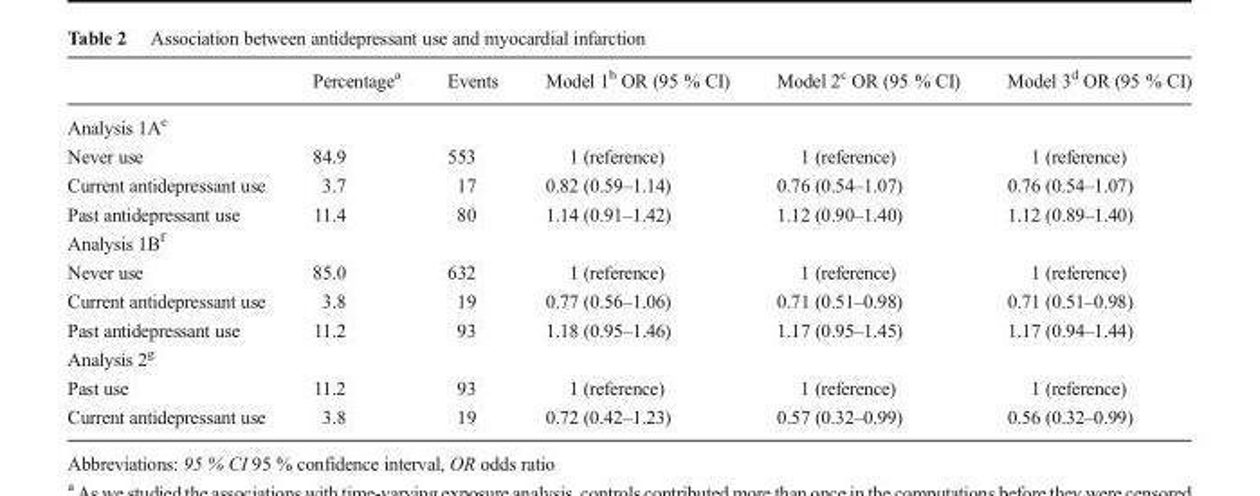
<table><thead><tr><td></td><td>Percentage<sup>a</sup></td><td>Events</td><td>Model 1<sup>b</sup> OR (95 % CI)</td><td>Model 2<sup>c</sup> OR (95 % CI)</td><td>Model 3<sup>d</sup> OR (95 % CI)</td></tr></thead><tbody><tr><td colspan="6">Analysis 1A<sup>e</sup></td></tr><tr><td>Never use</td><td>84.9</td><td>553</td><td>1 (reference)</td><td>1 (reference)</td><td>1 (reference)</td></tr><tr><td>Current antidepressant use</td><td>3.7</td><td>17</td><td>0.82 (0.59–1.14)</td><td>0.76 (0.54–1.07)</td><td>0.76 (0.54–1.07)</td></tr><tr><td>Past antidepressant use</td><td>11.4</td><td>80</td><td>1.14 (0.91–1.42)</td><td>1.12 (0.90–1.40)</td><td>1.12 (0.89–1.40)</td></tr><tr><td colspan="6">Analysis 1B<sup>f</sup></td></tr><tr><td>Never use</td><td>85.0</td><td>632</td><td>1 (reference)</td><td>1 (reference)</td><td>1 (reference)</td></tr><tr><td>Current antidepressant use</td><td>3.8</td><td>19</td><td>0.77 (0.56–1.06)</td><td>0.71 (0.51–0.98)</td><td>0.71 (0.51–0.98)</td></tr><tr><td>Past antidepressant use</td><td>11.2</td><td>93</td><td>1.18 (0.95–1.46)</td><td>1.17 (0.95–1.45)</td><td>1.17 (0.94–1.44)</td></tr><tr><td colspan="6">Analysis 2<sup>g</sup></td></tr><tr><td>Past use</td><td>11.2</td><td>93</td><td>1 (reference)</td><td>1 (reference)</td><td>1 (reference)</td></tr><tr><td>Current antidepressant use</td><td>3.8</td><td>19</td><td>0.72 (0.42–1.23)</td><td>0.57 (0.32–0.99)</td><td>0.56 (0.32–0.99)</td></tr></tbody></table>